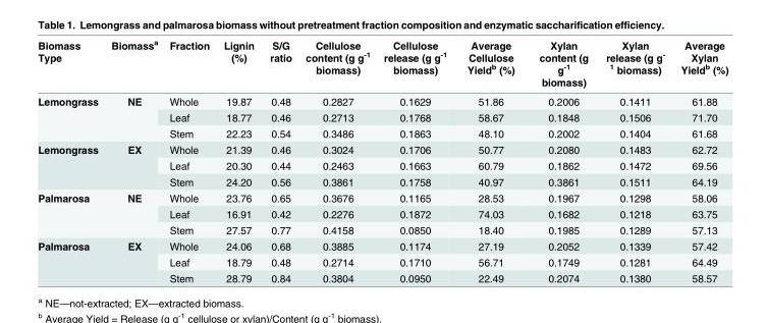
<table><thead><tr><td>Biomass Type</td><td>Biomass<sup>a</sup></td><td>Fraction</td><td>Lignin (%)</td><td>S/G ratio</td><td>Cellulose content (g g<sup>-1</sup> biomass)</td><td>Cellulose release (g g<sup>-1</sup> biomass)</td><td>Average Cellulose Yield<sup>b</sup> (%)</td><td>Xylan content (g g<sup>-1</sup> biomass)</td><td>Xylan release (g g<sup>- 1</sup> biomass)</td><td>Average Xylan Yield<sup>b</sup> (%)</td></tr></thead><tbody><tr><td rowspan="3">Lemongrass</td><td rowspan="3">NE</td><td>Whole</td><td>19.87</td><td>0.48</td><td>0.2827</td><td>0.1629</td><td>51.86</td><td>0.2006</td><td>0.1411</td><td>61.88</td></tr><tr><td>Leaf</td><td>18.77</td><td>0.46</td><td>0.2713</td><td>0.1768</td><td>58.67</td><td>0.1848</td><td>0.1506</td><td>71.70</td></tr><tr><td>Stem</td><td>22.23</td><td>0.54</td><td>0.3486</td><td>0.1863</td><td>48.10</td><td>0.2002</td><td>0.1404</td><td>61.68</td></tr><tr><td rowspan="3">Lemongrass</td><td rowspan="3">EX</td><td>Whole</td><td>21.39</td><td>0.46</td><td>0.3024</td><td>0.1706</td><td>50.77</td><td>0.2080</td><td>0.1483</td><td>62.72</td></tr><tr><td>Leaf</td><td>20.30</td><td>0.44</td><td>0.2463</td><td>0.1663</td><td>60.79</td><td>0.1862</td><td>0.1472</td><td>69.56</td></tr><tr><td>Stem</td><td>24.20</td><td>0.56</td><td>0.3861</td><td>0.1758</td><td>40.97</td><td>0.3861</td><td>0.1511</td><td>64.19</td></tr><tr><td rowspan="3">Palmarosa</td><td rowspan="3">NE</td><td>Whole</td><td>23.76</td><td>0.65</td><td>0.3676</td><td>0.1165</td><td>28.53</td><td>0.1967</td><td>0.1298</td><td>58.06</td></tr><tr><td>Leaf</td><td>16.91</td><td>0.42</td><td>0.2276</td><td>0.1872</td><td>74.03</td><td>0.1682</td><td>0.1218</td><td>63.75</td></tr><tr><td>Stem</td><td>27.57</td><td>0.77</td><td>0.4158</td><td>0.0850</td><td>18.40</td><td>0.1985</td><td>0.1289</td><td>57.13</td></tr><tr><td rowspan="3">Palmarosa</td><td rowspan="3">EX</td><td>Whole</td><td>24.06</td><td>0.68</td><td>0.3885</td><td>0.1174</td><td>27.19</td><td>0.2052</td><td>0.1339</td><td>57.42</td></tr><tr><td>Leaf</td><td>18.79</td><td>0.48</td><td>0.2714</td><td>0.1710</td><td>56.71</td><td>0.1749</td><td>0.1281</td><td>64.49</td></tr><tr><td>Stem</td><td>28.79</td><td>0.84</td><td>0.3804</td><td>0.0950</td><td>22.49</td><td>0.2074</td><td>0.1380</td><td>58.57</td></tr></tbody></table>